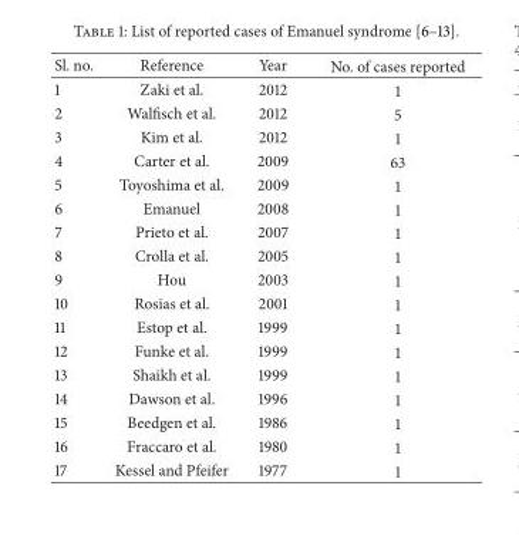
<table><thead><tr><td>Sl. no.</td><td>Reference</td><td>Year</td><td>No. of cases reported</td></tr></thead><tbody><tr><td>1</td><td>Zaki et al.</td><td>2012</td><td>1</td></tr><tr><td>2</td><td>Walfisch et al.</td><td>2012</td><td>5</td></tr><tr><td>3</td><td>Kim et al.</td><td>2012</td><td>1</td></tr><tr><td>4</td><td>Carter et al.</td><td>2009</td><td>63</td></tr><tr><td>5</td><td>Toyoshima et al.</td><td>2009</td><td>1</td></tr><tr><td>6</td><td>Emanuel</td><td>2008</td><td>1</td></tr><tr><td>7</td><td>Prieto et al.</td><td>2007</td><td>1</td></tr><tr><td>8</td><td>Crolla et al.</td><td>2005</td><td>1</td></tr><tr><td>9</td><td>Hou</td><td>2003</td><td>1</td></tr><tr><td>10</td><td>Rosias et al.</td><td>2001</td><td>1</td></tr><tr><td>11</td><td>Estop et al.</td><td>1999</td><td>1</td></tr><tr><td>12</td><td>Funke et al.</td><td>1999</td><td>1</td></tr><tr><td>13</td><td>Shaikh et al.</td><td>1999</td><td>1</td></tr><tr><td>14</td><td>Dawson et al.</td><td>1996</td><td>1</td></tr><tr><td>15</td><td>Beedgen et al.</td><td>1986</td><td>1</td></tr><tr><td>16</td><td>Fraccaro et al.</td><td>1980</td><td>1</td></tr><tr><td>17</td><td>Kessel and Pfeifer</td><td>1977</td><td>1</td></tr></tbody></table>